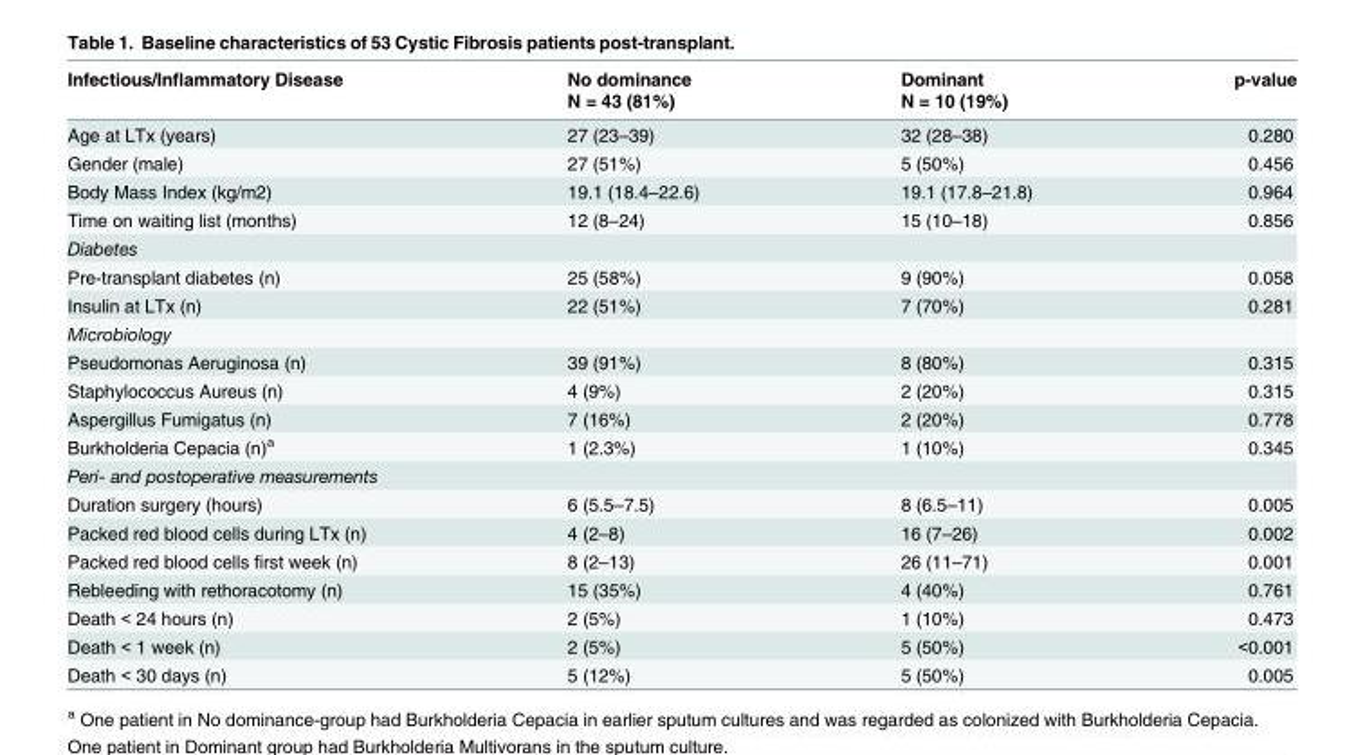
<table><thead><tr><td rowspan="2">Infectious/Inflammatory Disease</td><td rowspan="2">No dominance N = 43 (81%)</td><td rowspan="2">Dominant N = 10 (19%)</td><td rowspan="2">p-value</td></tr><tr></tr></thead><tbody><tr><td>Age at LTx (years)</td><td>27 (23–39)</td><td>32 (28–38)</td><td>0.280</td></tr><tr><td>Gender (male)</td><td>27 (51%)</td><td>5 (50%)</td><td>0.456</td></tr><tr><td>Body Mass Index (kg/m2)</td><td>19.1 (18.4–22.6)</td><td>19.1 (17.8–21.8)</td><td>0.964</td></tr><tr><td>Time on waiting list (months)</td><td>12 (8–24)</td><td>15 (10–18)</td><td>0.856</td></tr><tr><td colspan="4">Diabetes</td></tr><tr><td>Pre-transplant diabetes (n)</td><td>25 (58%)</td><td>9 (90%)</td><td>0.058</td></tr><tr><td>Insulin at LTx (n)</td><td>22 (51%)</td><td>7 (70%)</td><td>0.281</td></tr><tr><td colspan="4">Microbiology</td></tr><tr><td>Pseudomonas Aeruginosa (n)</td><td>39 (91%)</td><td>8 (80%)</td><td>0.315</td></tr><tr><td>Staphylococcus Aureus (n)</td><td>4 (9%)</td><td>2 (20%)</td><td>0.315</td></tr><tr><td>Aspergillus Fumigatus (n)</td><td>7 (16%)</td><td>2 (20%)</td><td>0.778</td></tr><tr><td>Burkholderia Cepacia (n)<sup>a</sup></td><td>1 (2.3%)</td><td>1 (10%)</td><td>0.345</td></tr><tr><td colspan="4">Peri- and postoperative measurements</td></tr><tr><td>Duration surgery (hours)</td><td>6 (5.5–7.5)</td><td>8 (6.5–11)</td><td>0.005</td></tr><tr><td>Packed red blood cells during LTx (n)</td><td>4 (2–8)</td><td>16 (7–26)</td><td>0.002</td></tr><tr><td>Packed red blood cells first week (n)</td><td>8 (2–13)</td><td>26 (11–71)</td><td>0.001</td></tr><tr><td>Rebleeding with rethoracotomy (n)</td><td>15 (35%)</td><td>4 (40%)</td><td>0.761</td></tr><tr><td>Death &lt; 24 hours (n)</td><td>2 (5%)</td><td>1 (10%)</td><td>0.473</td></tr><tr><td>Death &lt; 1 week (n)</td><td>2 (5%)</td><td>5 (50%)</td><td>&lt;0.001</td></tr><tr><td>Death &lt; 30 days (n)</td><td>5 (12%)</td><td>5 (50%)</td><td>0.005</td></tr></tbody></table>